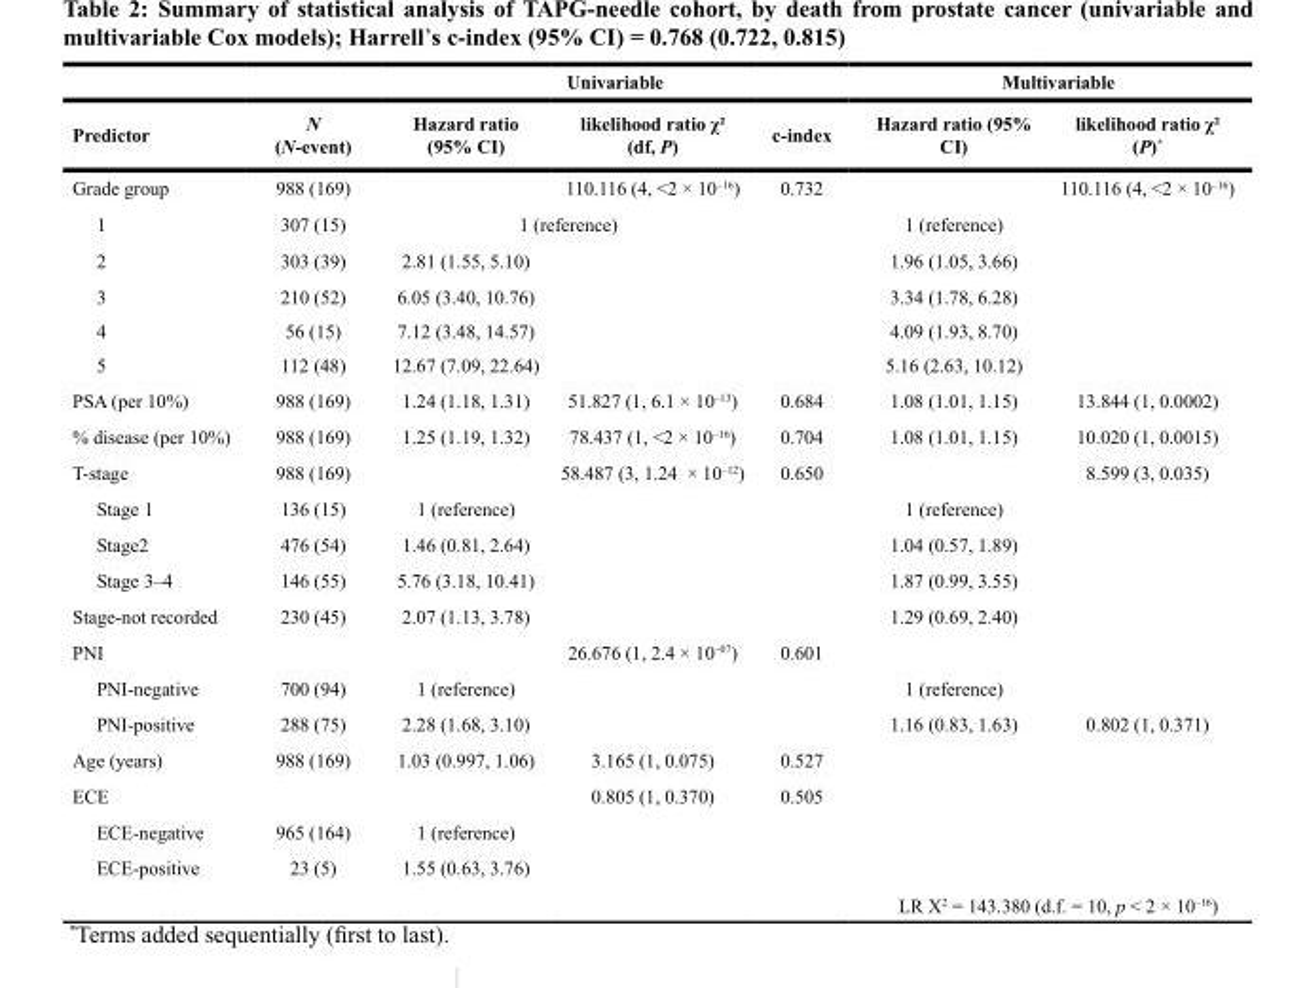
<table><thead><tr><td rowspan="2">Predictor</td><td rowspan="2">N (N-event)</td><td colspan="3">Univariable</td><td colspan="2">Multivariable</td></tr><tr><td>Hazard ratio (95% CI)</td><td>likelihood ratio χ² (df, P)</td><td>c-index</td><td>Hazard ratio (95% CI)</td><td>likelihood ratio χ² (P)*</td></tr></thead><tbody><tr><td>Grade group</td><td>988 (169)</td><td></td><td>110.116 (4, &lt;2 × 10<sup>–16</sup>)</td><td>0.732</td><td></td><td>110.116 (4, &lt;2 × 10<sup>–16</sup>)</td></tr><tr><td>1</td><td>307 (15)</td><td colspan="2">1 (reference)</td><td></td><td>1 (reference)</td><td></td></tr><tr><td>2</td><td>303 (39)</td><td>2.81 (1.55, 5.10)</td><td></td><td></td><td>1.96 (1.05, 3.66)</td><td></td></tr><tr><td>3</td><td>210 (52)</td><td>6.05 (3.40, 10.76)</td><td></td><td></td><td>3.34 (1.78, 6.28)</td><td></td></tr><tr><td>4</td><td>56 (15)</td><td>7.12 (3.48, 14.57)</td><td></td><td></td><td>4.09 (1.93, 8.70)</td><td></td></tr><tr><td>5</td><td>112 (48)</td><td>12.67 (7.09, 22.64)</td><td></td><td></td><td>5.16 (2.63, 10.12)</td><td></td></tr><tr><td>PSA (per 10%)</td><td>988 (169)</td><td>1.24 (1.18, 1.31)</td><td>51.827 (1, 6.1 × 10<sup>–13</sup>)</td><td>0.684</td><td>1.08 (1.01, 1.15)</td><td>13.844 (1, 0.0002)</td></tr><tr><td>% disease (per 10%)</td><td>988 (169)</td><td>1.25 (1.19, 1.32)</td><td>78.437 (1, &lt;2 × 10<sup>–16</sup>)</td><td>0.704</td><td>1.08 (1.01, 1.15)</td><td>10.020 (1, 0.0015)</td></tr><tr><td>T-stage</td><td>988 (169)</td><td></td><td>58.487 (3, 1.24 × 10<sup>–12</sup>)</td><td>0.650</td><td></td><td>8.599 (3, 0.035)</td></tr><tr><td>Stage 1</td><td>136 (15)</td><td>1 (reference)</td><td></td><td></td><td>1 (reference)</td><td></td></tr><tr><td>Stage2</td><td>476 (54)</td><td>1.46 (0.81, 2.64)</td><td></td><td></td><td>1.04 (0.57, 1.89)</td><td></td></tr><tr><td>Stage 3–4</td><td>146 (55)</td><td>5.76 (3.18, 10.41)</td><td></td><td></td><td>1.87 (0.99, 3.55)</td><td></td></tr><tr><td>Stage-not recorded</td><td>230 (45)</td><td>2.07 (1.13, 3.78)</td><td></td><td></td><td>1.29 (0.69, 2.40)</td><td></td></tr><tr><td>PNI</td><td></td><td></td><td>26.676 (1, 2.4 × 10<sup>–07</sup>)</td><td>0.601</td><td></td><td></td></tr><tr><td>PNI-negative</td><td>700 (94)</td><td>1 (reference)</td><td></td><td></td><td>1 (reference)</td><td></td></tr><tr><td>PNI-positive</td><td>288 (75)</td><td>2.28 (1.68, 3.10)</td><td></td><td></td><td>1.16 (0.83, 1.63)</td><td>0.802 (1, 0.371)</td></tr><tr><td>Age (years)</td><td>988 (169)</td><td>1.03 (0.997, 1.06)</td><td>3.165 (1, 0.075)</td><td>0.527</td><td></td><td></td></tr><tr><td>ECE</td><td></td><td></td><td>0.805 (1, 0.370)</td><td>0.505</td><td></td><td></td></tr><tr><td>ECE-negative</td><td>965 (164)</td><td>1 (reference)</td><td></td><td></td><td></td><td></td></tr><tr><td rowspan="2">ECE-positive</td><td>23 (5)</td><td>1.55 (0.63, 3.76)</td><td></td><td></td><td></td><td></td></tr><tr><td></td><td></td><td></td><td></td><td colspan="2">LR X<sup>2</sup> = 143.380 (d.f. = 10, p &lt; 2 × 10<sup>–16</sup>)</td></tr></tbody></table>